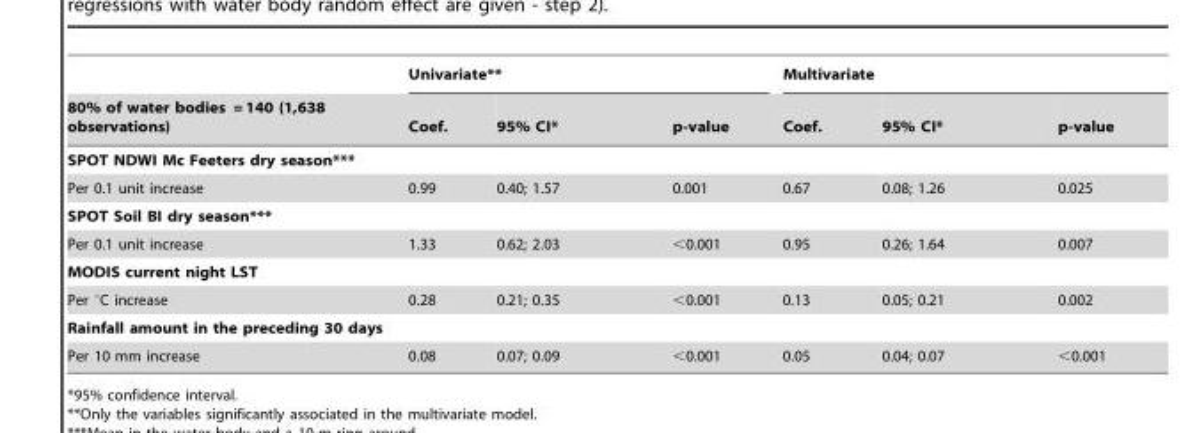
<table><thead><tr><td rowspan="2">80% of water bodies = 140 (1,638 observations)</td><td colspan="3">Univariate**</td><td colspan="3">Multivariate</td></tr><tr><td>Coef.</td><td>95% CI*</td><td>p-value</td><td>Coef.</td><td>95% CI*</td><td>p-value</td></tr></thead><tbody><tr><td colspan="7">SPOT NDWI Mc Feeters dry season***</td></tr><tr><td>Per 0.1 unit increase</td><td>0.99</td><td>0.40; 1.57</td><td>0.001</td><td>0.67</td><td>0.08; 1.26</td><td>0.025</td></tr><tr><td colspan="7">SPOT Soil BI dry season***</td></tr><tr><td>Per 0.1 unit increase</td><td>1.33</td><td>0.62; 2.03</td><td>&lt;0.001</td><td>0.95</td><td>0.26; 1.64</td><td>0.007</td></tr><tr><td colspan="7">MODIS current night LST</td></tr><tr><td>Per °C increase</td><td>0.28</td><td>0.21; 0.35</td><td>&lt;0.001</td><td>0.13</td><td>0.05; 0.21</td><td>0.002</td></tr><tr><td colspan="7">Rainfall amount in the preceding 30 days</td></tr><tr><td>Per 10 mm increase</td><td>0.08</td><td>0.07; 0.09</td><td>&lt;0.001</td><td>0.05</td><td>0.04; 0.07</td><td>&lt;0.001</td></tr></tbody></table>